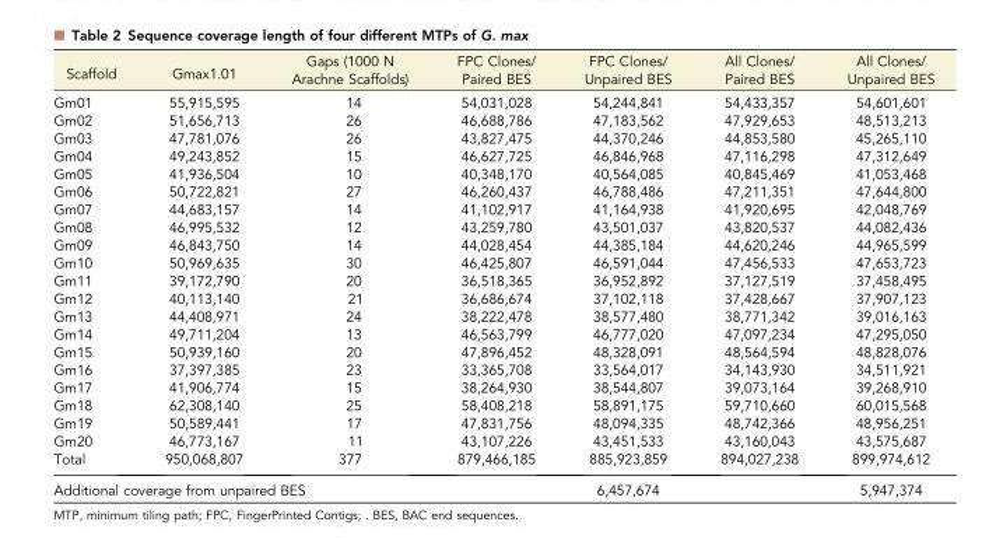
<table><thead><tr><td>Scaffold</td><td>Gmax1.01</td><td>Gaps (1000 N Arachne Scaffolds)</td><td>FPC Clones/ Paired BES</td><td>FPC Clones/ Unpaired BES</td><td>All Clones/ Paired BES</td><td>All Clones/ Unpaired BES</td></tr></thead><tbody><tr><td>Gm01</td><td>55,915,595</td><td>14</td><td>54,031,028</td><td>54,244,841</td><td>54,433,357</td><td>54,601,601</td></tr><tr><td>Gm02</td><td>51,656,713</td><td>26</td><td>46,688,786</td><td>47,183,562</td><td>47,929,653</td><td>48,513,213</td></tr><tr><td>Gm03</td><td>47,781,076</td><td>26</td><td>43,827,475</td><td>44,370,246</td><td>44,853,580</td><td>45,265,110</td></tr><tr><td>Gm04</td><td>49,243,852</td><td>15</td><td>46,627,725</td><td>46,846,968</td><td>47,116,298</td><td>47,312,649</td></tr><tr><td>Gm05</td><td>41,936,504</td><td>10</td><td>40,348,170</td><td>40,564,085</td><td>40,845,469</td><td>41,053,468</td></tr><tr><td>Gm06</td><td>50,722,821</td><td>27</td><td>46,260,437</td><td>46,788,486</td><td>47,211,351</td><td>47,644,800</td></tr><tr><td>Gm07</td><td>44,683,157</td><td>14</td><td>41,102,917</td><td>41,164,938</td><td>41,920,695</td><td>42,048,769</td></tr><tr><td>Gm08</td><td>46,995,532</td><td>12</td><td>43,259,780</td><td>43,501,037</td><td>43,820,537</td><td>44,082,436</td></tr><tr><td>Gm09</td><td>46,843,750</td><td>14</td><td>44,028,454</td><td>44,385,184</td><td>44,620,246</td><td>44,965,599</td></tr><tr><td>Gm10</td><td>50,969,635</td><td>30</td><td>46,425,807</td><td>46,591,044</td><td>47,456,533</td><td>47,653,723</td></tr><tr><td>Gm11</td><td>39,172,790</td><td>20</td><td>36,518,365</td><td>36,952,892</td><td>37,127,519</td><td>37,458,495</td></tr><tr><td>Gm12</td><td>40,113,140</td><td>21</td><td>36,686,674</td><td>37,102,118</td><td>37,428,667</td><td>37,907,123</td></tr><tr><td>Gm13</td><td>44,408,971</td><td>24</td><td>38,222,478</td><td>38,577,480</td><td>38,771,342</td><td>39,016,163</td></tr><tr><td>Gm14</td><td>49,711,204</td><td>13</td><td>46,563,799</td><td>46,777,020</td><td>47,097,234</td><td>47,295,050</td></tr><tr><td>Gm15</td><td>50,939,160</td><td>20</td><td>47,896,452</td><td>48,328,091</td><td>48,564,594</td><td>48,828,076</td></tr><tr><td>Gm16</td><td>37,397,385</td><td>23</td><td>33,365,708</td><td>33,564,017</td><td>34,143,930</td><td>34,511,921</td></tr><tr><td>Gm17</td><td>41,906,774</td><td>15</td><td>38,264,930</td><td>38,544,807</td><td>39,073,164</td><td>39,268,910</td></tr><tr><td>Gm18</td><td>62,308,140</td><td>25</td><td>58,408,218</td><td>58,891,175</td><td>59,710,660</td><td>60,015,568</td></tr><tr><td>Gm19</td><td>50,589,441</td><td>17</td><td>47,831,756</td><td>48,094,335</td><td>48,742,366</td><td>48,956,251</td></tr><tr><td>Gm20</td><td>46,773,167</td><td>11</td><td>43,107,226</td><td>43,451,533</td><td>43,160,043</td><td>43,575,687</td></tr><tr><td>Total</td><td>950,068,807</td><td>377</td><td>879,466,185</td><td>885,923,859</td><td>894,027,238</td><td>899,974,612</td></tr><tr><td colspan="3">Additional coverage from unpaired BES</td><td></td><td>6,457,674</td><td></td><td>5,947,374</td></tr></tbody></table>